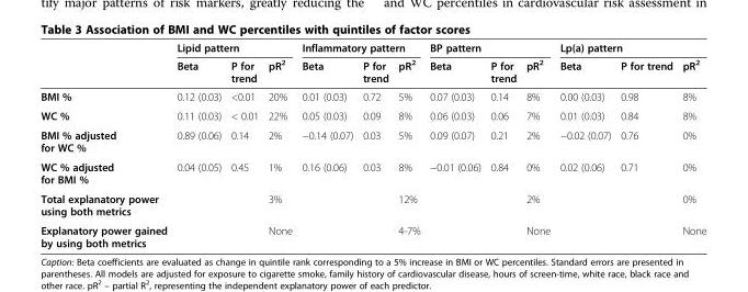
<table><thead><tr><td rowspan="2"></td><td colspan="3">Lipid pattern</td><td colspan="3">Inflammatory pattern</td><td colspan="3">BP pattern</td><td colspan="3">Lp(a) pattern</td></tr><tr><td>Beta</td><td>P for trend</td><td>pR<sup>2</sup></td><td>Beta</td><td>P for trend</td><td>pR<sup>2</sup></td><td>Beta</td><td>P for trend</td><td>pR<sup>2</sup></td><td>Beta</td><td>P for trend</td><td>pR<sup>2</sup></td></tr></thead><tbody><tr><td>BMI %</td><td>0.12 (0.03)</td><td>&lt;0.01</td><td>20%</td><td>0.01 (0.03)</td><td>0.72</td><td>5%</td><td>0.07 (0.03)</td><td>0.14</td><td>8%</td><td>0.00 (0.03)</td><td>0.98</td><td>8%</td></tr><tr><td>WC %</td><td>0.11 (0.03)</td><td>&lt; 0.01</td><td>22%</td><td>0.05 (0.03)</td><td>0.09</td><td>8%</td><td>0.06 (0.03)</td><td>0.06</td><td>7%</td><td>0.01 (0.03)</td><td>0.84</td><td>8%</td></tr><tr><td>BMI % adjusted for WC %</td><td>0.89 (0.06)</td><td>0.14</td><td>2%</td><td>−0.14 (0.07)</td><td>0.03</td><td>5%</td><td>0.09 (0.07)</td><td>0.21</td><td>2%</td><td>−0.02 (0.07)</td><td>0.76</td><td>0%</td></tr><tr><td>WC % adjusted for BMI %</td><td>0.04 (0.05)</td><td>0.45</td><td>1%</td><td>0.16 (0.06)</td><td>0.03</td><td>8%</td><td>−0.01 (0.06)</td><td>0.84</td><td>0%</td><td>0.02 (0.06)</td><td>0.71</td><td>0%</td></tr><tr><td>Total explanatory power using both metrics</td><td></td><td></td><td>3%</td><td></td><td></td><td>12%</td><td></td><td></td><td>2%</td><td></td><td></td><td>0%</td></tr><tr><td>Explanatory power gained by using both metrics</td><td></td><td></td><td>None</td><td></td><td></td><td>4-7%</td><td></td><td></td><td>None</td><td></td><td></td><td>None</td></tr></tbody></table>